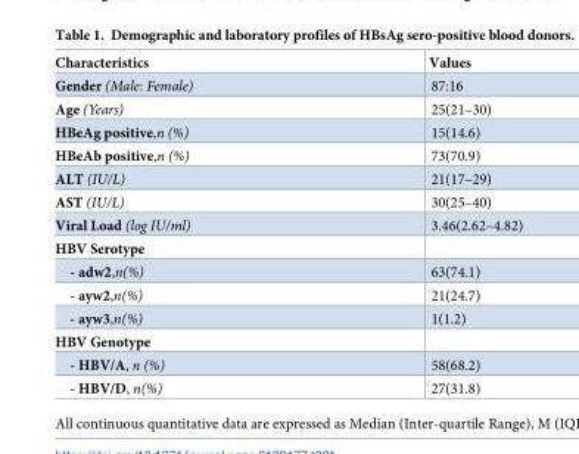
<table><thead><tr><td>Characteristics</td><td>Values</td></tr></thead><tbody><tr><td>Gender (Male: Female)</td><td>87:16</td></tr><tr><td>Age (Years)</td><td>25(21–30)</td></tr><tr><td>HBeAg positive,n (%)</td><td>15(14.6)</td></tr><tr><td>HBeAb positive,n (%)</td><td>73(70.9)</td></tr><tr><td>ALT (IU/L)</td><td>21(17–29)</td></tr><tr><td>AST (IU/L)</td><td>30(25–40)</td></tr><tr><td>Viral Load (log IU/ml)</td><td>3.46(2.62–4.82)</td></tr><tr><td colspan="2">HBV Serotype</td></tr><tr><td>- adw2,n(%)</td><td>63(74.1)</td></tr><tr><td>- ayw2,n(%)</td><td>21(24.7)</td></tr><tr><td>- ayw3,n(%)</td><td>1(1.2)</td></tr><tr><td colspan="2">HBV Genotype</td></tr><tr><td>- HBV/A, n (%)</td><td>58(68.2)</td></tr><tr><td>- HBV/D, n(%)</td><td>27(31.8)</td></tr></tbody></table>